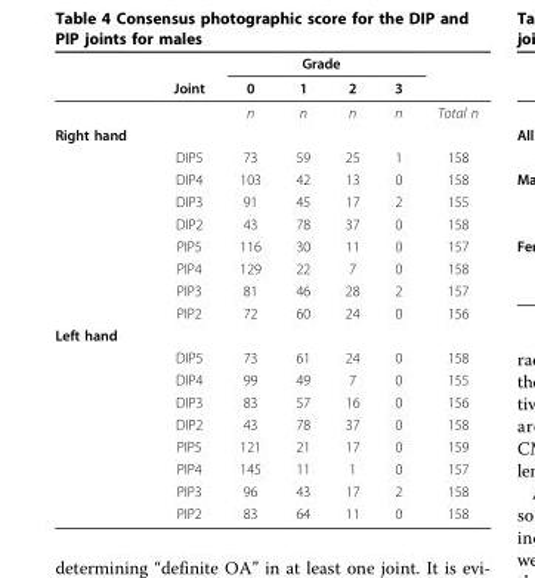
<table><thead><tr><td rowspan="2"></td><td rowspan="2">Joint</td><td colspan="4">Grade</td><td rowspan="2"></td></tr><tr><td>0</td><td>1</td><td>2</td><td>3</td></tr></thead><tbody><tr><td></td><td></td><td>n</td><td>n</td><td>n</td><td>n</td><td>Total n</td></tr><tr><td colspan="7">Right hand</td></tr><tr><td></td><td>DIP5</td><td>73</td><td>59</td><td>25</td><td>1</td><td>158</td></tr><tr><td></td><td>DIP4</td><td>103</td><td>42</td><td>13</td><td>0</td><td>158</td></tr><tr><td></td><td>DIP3</td><td>91</td><td>45</td><td>17</td><td>2</td><td>155</td></tr><tr><td></td><td>DIP2</td><td>43</td><td>78</td><td>37</td><td>0</td><td>158</td></tr><tr><td></td><td>PIP5</td><td>116</td><td>30</td><td>11</td><td>0</td><td>157</td></tr><tr><td></td><td>PIP4</td><td>129</td><td>22</td><td>7</td><td>0</td><td>158</td></tr><tr><td></td><td>PIP3</td><td>81</td><td>46</td><td>28</td><td>2</td><td>157</td></tr><tr><td></td><td>PIP2</td><td>72</td><td>60</td><td>24</td><td>0</td><td>156</td></tr><tr><td colspan="7">Left hand</td></tr><tr><td></td><td>DIP5</td><td>73</td><td>61</td><td>24</td><td>0</td><td>158</td></tr><tr><td></td><td>DIP4</td><td>99</td><td>49</td><td>7</td><td>0</td><td>155</td></tr><tr><td></td><td>DIP3</td><td>83</td><td>57</td><td>16</td><td>0</td><td>156</td></tr><tr><td></td><td>DIP2</td><td>43</td><td>78</td><td>37</td><td>0</td><td>158</td></tr><tr><td></td><td>PIP5</td><td>121</td><td>21</td><td>17</td><td>0</td><td>159</td></tr><tr><td></td><td>PIP4</td><td>145</td><td>11</td><td>1</td><td>0</td><td>157</td></tr><tr><td></td><td>PIP3</td><td>96</td><td>43</td><td>17</td><td>2</td><td>158</td></tr><tr><td></td><td>PIP2</td><td>83</td><td>64</td><td>11</td><td>0</td><td>158</td></tr></tbody></table>